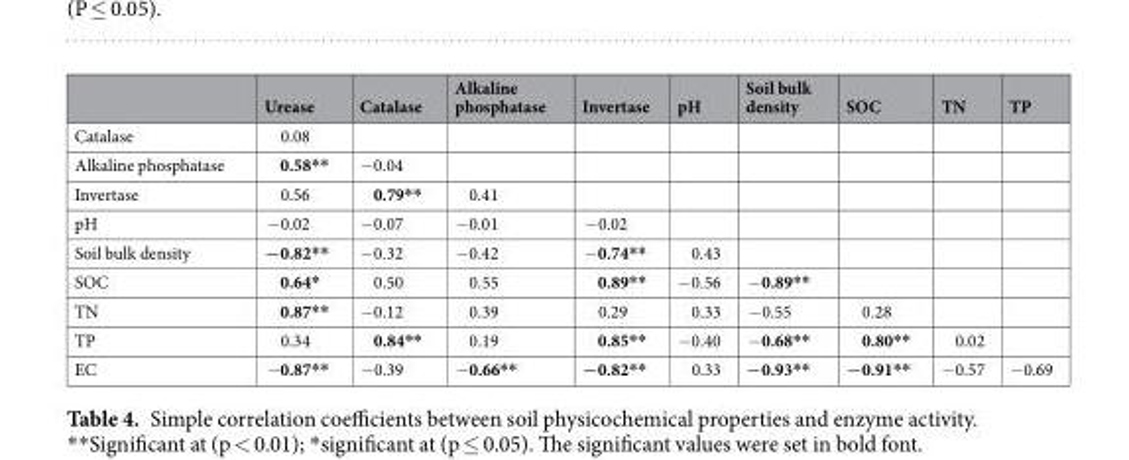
<table><thead><tr><td></td><td>Urease</td><td>Catalase</td><td>Alkaline phosphatase</td><td>Invertase</td><td>pH</td><td>Soil bulk density</td><td>SOC</td><td>TN</td><td>TP</td></tr></thead><tbody><tr><td>Catalase</td><td>0.08</td><td></td><td></td><td></td><td></td><td></td><td></td><td></td><td></td></tr><tr><td>Alkaline phosphatase</td><td>0.58**</td><td>−0.04</td><td></td><td></td><td></td><td></td><td></td><td></td><td></td></tr><tr><td>Invertase</td><td>0.56</td><td>0.79**</td><td>0.41</td><td></td><td></td><td></td><td></td><td></td><td></td></tr><tr><td>pH</td><td>−0.02</td><td>−0.07</td><td>−0.01</td><td>−0.02</td><td></td><td></td><td></td><td></td><td></td></tr><tr><td>Soil bulk density</td><td>−0.82**</td><td>−0.32</td><td>−0.42</td><td>−0.74**</td><td>0.43</td><td></td><td></td><td></td><td></td></tr><tr><td>SOC</td><td>0.64*</td><td>0.50</td><td>0.55</td><td>0.89**</td><td>−0.56</td><td>−0.89**</td><td></td><td></td><td></td></tr><tr><td>TN</td><td>0.87**</td><td>−0.12</td><td>0.39</td><td>0.29</td><td>0.33</td><td>−0.55</td><td>0.28</td><td></td><td></td></tr><tr><td>TP</td><td>0.34</td><td>0.84**</td><td>0.19</td><td>0.85**</td><td>−0.40</td><td>−0.68**</td><td>0.80**</td><td>0.02</td><td></td></tr><tr><td>EC</td><td>−0.87**</td><td>−0.39</td><td>−0.66**</td><td>−0.82**</td><td>0.33</td><td>−0.93**</td><td>−0.91**</td><td>−0.57</td><td>−0.69</td></tr></tbody></table>